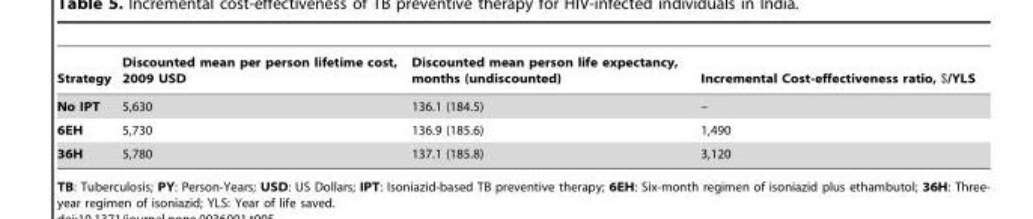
<table><thead><tr><td>Strategy</td><td>Discounted mean per person lifetime cost, 2009 USD</td><td>Discounted mean person life expectancy, months (undiscounted)</td><td>Incremental Cost-effectiveness ratio, $/YLS</td></tr></thead><tbody><tr><td>No IPT</td><td>5,630</td><td>136.1 (184.5)</td><td>–</td></tr><tr><td>6EH</td><td>5,730</td><td>136.9 (185.6)</td><td>1,490</td></tr><tr><td>36H</td><td>5,780</td><td>137.1 (185.8)</td><td>3,120</td></tr></tbody></table>